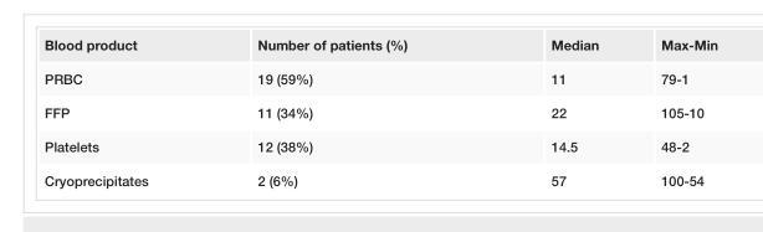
<table><tbody><tr><td>Blood product</td><td>Number of patients (%)</td><td>Median</td><td>Max-Min</td></tr><tr><td>PRBC</td><td>19 (59%)</td><td>11</td><td>79-1</td></tr><tr><td>FFP</td><td>11 (34%)</td><td>22</td><td>105-10</td></tr><tr><td>Platelets</td><td>12 (38%)</td><td>14.5</td><td>48-2</td></tr><tr><td>Cryoprecipitates</td><td>2 (6%)</td><td>57</td><td>100-54</td></tr></tbody></table>